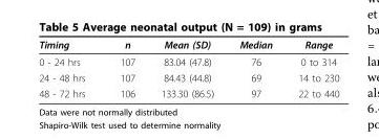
<table><thead><tr><td>Timing</td><td>n</td><td>Mean (SD)</td><td>Median</td><td>Range</td></tr></thead><tbody><tr><td>0 - 24 hrs</td><td>107</td><td>83.04 (47.8)</td><td>76</td><td>0 to 314</td></tr><tr><td>24 - 48 hrs</td><td>107</td><td>84.43 (44.8)</td><td>69</td><td>14 to 230</td></tr><tr><td>48 - 72 hrs</td><td>106</td><td>133.30 (86.5)</td><td>97</td><td>22 to 440</td></tr></tbody></table>